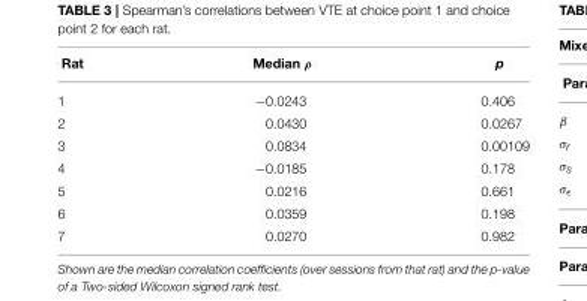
<table><thead><tr><td>Rat</td><td>Median ρ</td><td>p</td></tr></thead><tbody><tr><td>1</td><td>−0.0243</td><td>0.406</td></tr><tr><td>2</td><td>0.0430</td><td>0.0267</td></tr><tr><td>3</td><td>0.0834</td><td>0.00109</td></tr><tr><td>4</td><td>−0.0185</td><td>0.178</td></tr><tr><td>5</td><td>0.0216</td><td>0.661</td></tr><tr><td>6</td><td>0.0359</td><td>0.198</td></tr><tr><td>7</td><td>0.0270</td><td>0.982</td></tr></tbody></table>